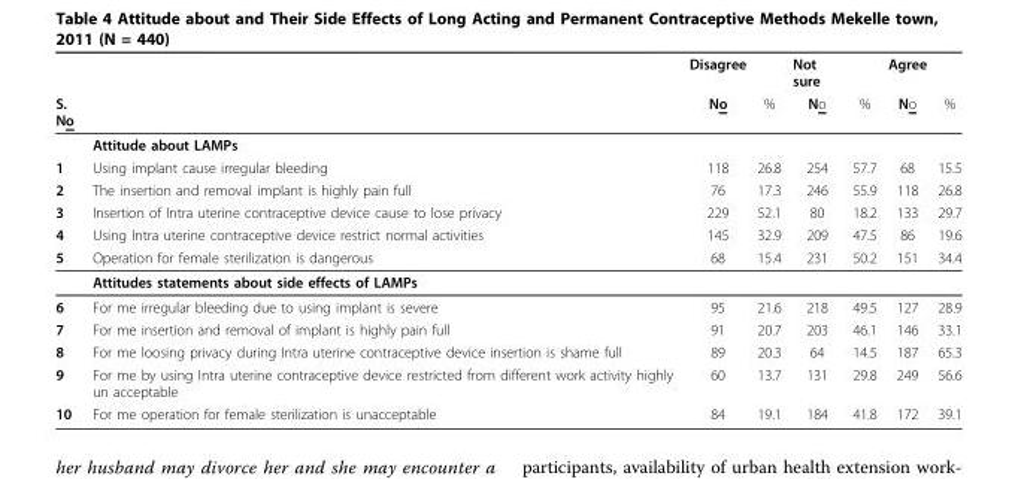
<table><thead><tr><td rowspan="2">S. No</td><td rowspan="2"></td><td rowspan="2">Disagree No</td><td rowspan="2">%</td><td rowspan="2">Not sure No</td><td rowspan="2">%</td><td rowspan="2">Agree No</td><td rowspan="2">%</td></tr><tr></tr></thead><tbody><tr><td></td><td>Attitude about LAMPs</td><td></td><td></td><td></td><td></td><td></td><td></td></tr><tr><td>1</td><td>Using implant cause irregular bleeding</td><td>118</td><td>26.8</td><td>254</td><td>57.7</td><td>68</td><td>15.5</td></tr><tr><td>2</td><td>The insertion and removal implant is highly pain full</td><td>76</td><td>17.3</td><td>246</td><td>55.9</td><td>118</td><td>26.8</td></tr><tr><td>3</td><td>Insertion of Intra uterine contraceptive device cause to lose privacy</td><td>229</td><td>52.1</td><td>80</td><td>18.2</td><td>133</td><td>29.7</td></tr><tr><td>4</td><td>Using Intra uterine contraceptive device restrict normal activities</td><td>145</td><td>32.9</td><td>209</td><td>47.5</td><td>86</td><td>19.6</td></tr><tr><td rowspan="2">5</td><td>Operation for female sterilization is dangerous</td><td>68</td><td>15.4</td><td>231</td><td>50.2</td><td>151</td><td>34.4</td></tr><tr><td>Attitudes statements about side effects of LAMPs</td><td></td><td></td><td></td><td></td><td></td><td></td></tr><tr><td>6</td><td>For me irregular bleeding due to using implant is severe</td><td>95</td><td>21.6</td><td>218</td><td>49.5</td><td>127</td><td>28.9</td></tr><tr><td>7</td><td>For me insertion and removal of implant is highly pain full</td><td>91</td><td>20.7</td><td>203</td><td>46.1</td><td>146</td><td>33.1</td></tr><tr><td>8</td><td>For me loosing privacy during Intra uterine contraceptive device insertion is shame full</td><td>89</td><td>20.3</td><td>64</td><td>14.5</td><td>187</td><td>65.3</td></tr><tr><td>9</td><td>For me by using Intra uterine contraceptive device restricted from different work activity highly un acceptable</td><td>60</td><td>13.7</td><td>131</td><td>29.8</td><td>249</td><td>56.6</td></tr><tr><td>10</td><td>For me operation for female sterilization is unacceptable</td><td>84</td><td>19.1</td><td>184</td><td>41.8</td><td>172</td><td>39.1</td></tr></tbody></table>